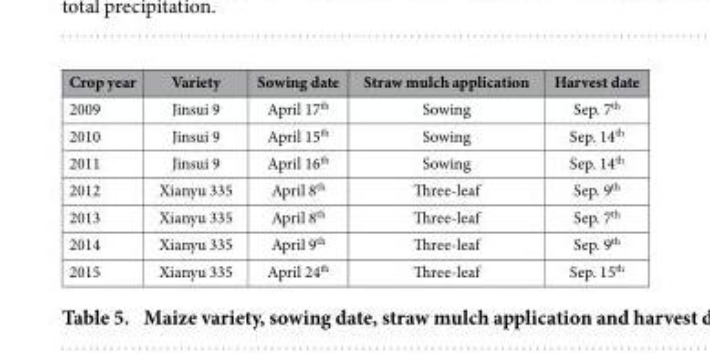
<table><thead><tr><td>Crop year</td><td>Variety</td><td>Sowing date</td><td>Straw mulch application</td><td>Harvest date</td></tr></thead><tbody><tr><td>2009</td><td>Jinsui 9</td><td>April 17<sup>th</sup></td><td>Sowing</td><td>Sep. 7<sup>th</sup></td></tr><tr><td>2010</td><td>Jinsui 9</td><td>April 15<sup>th</sup></td><td>Sowing</td><td>Sep. 14<sup>th</sup></td></tr><tr><td>2011</td><td>Jinsui 9</td><td>April 16<sup>th</sup></td><td>Sowing</td><td>Sep. 14<sup>th</sup></td></tr><tr><td>2012</td><td>Xianyu 335</td><td>April 8<sup>th</sup></td><td>Three-leaf</td><td>Sep. 9<sup>th</sup></td></tr><tr><td>2013</td><td>Xianyu 335</td><td>April 8<sup>th</sup></td><td>Three-leaf</td><td>Sep. 7<sup>th</sup></td></tr><tr><td>2014</td><td>Xianyu 335</td><td>April 9<sup>th</sup></td><td>Three-leaf</td><td>Sep. 9<sup>th</sup></td></tr><tr><td>2015</td><td>Xianyu 335</td><td>April 24<sup>th</sup></td><td>Three-leaf</td><td>Sep. 15<sup>th</sup></td></tr></tbody></table>